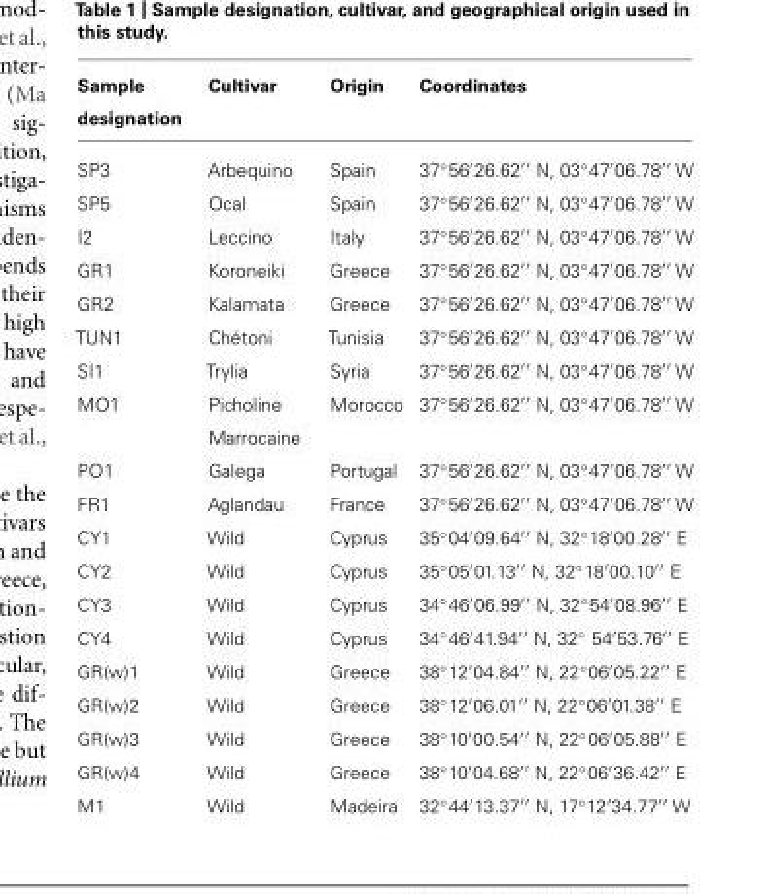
<table><thead><tr><td>Sample designation</td><td>Cultivar</td><td>Origin</td><td>Coordinates</td></tr></thead><tbody><tr><td>SP3</td><td>Arbequino</td><td>Spain</td><td>37◦56′26.62′′ N, 03◦47′06.78′′ W</td></tr><tr><td>SP5</td><td>Ocal</td><td>Spain</td><td>37◦56′26.62′′ N, 03◦47′06.78′′ W</td></tr><tr><td>I2</td><td>Leccino</td><td>Italy</td><td>37◦56′26.62′′ N, 03◦47′06.78′′ W</td></tr><tr><td>GR1</td><td>Koroneiki</td><td>Greece</td><td>37◦56′26.62′′ N, 03◦47′06.78′′ W</td></tr><tr><td>GR2</td><td>Kalamata</td><td>Greece</td><td>37◦56′26.62′′ N, 03◦47′06.78′′ W</td></tr><tr><td>TUN1</td><td>Chétoni</td><td>Tunisia</td><td>37◦56′26.62′′ N, 03◦47′06.78′′ W</td></tr><tr><td>SI1</td><td>Trylia</td><td>Syria</td><td>37◦56′26.62′′ N, 03◦47′06.78′′ W</td></tr><tr><td>MO1</td><td>Picholine Marrocaine</td><td>Morocco</td><td>37◦56′26.62′′ N, 03◦47′06.78′′ W</td></tr><tr><td>PO1</td><td>Galega</td><td>Portugal</td><td>37◦56′26.62′′ N, 03◦47′06.78′′ W</td></tr><tr><td>FR1</td><td>Aglandau</td><td>France</td><td>37◦56′26.62′′ N, 03◦47′06.78′′ W</td></tr><tr><td>CY1</td><td>Wild</td><td>Cyprus</td><td>35◦04′09.64′′ N, 32◦18′00.28′′ E</td></tr><tr><td>CY2</td><td>Wild</td><td>Cyprus</td><td>35◦05′01.13′′ N, 32◦18′00.10′′ E</td></tr><tr><td>CY3</td><td>Wild</td><td>Cyprus</td><td>34◦46′06.99′′ N, 32◦54′08.96′′ E</td></tr><tr><td>CY4</td><td>Wild</td><td>Cyprus</td><td>34◦46′41.94′′ N, 32◦ 54′53.76′′ E</td></tr><tr><td>GR(w)1</td><td>Wild</td><td>Greece</td><td>38◦12′04.84′′ N, 22◦06′05.22′′ E</td></tr><tr><td>GR(w)2</td><td>Wild</td><td>Greece</td><td>38◦12′06.01′′ N, 22◦06′01.38′′ E</td></tr><tr><td>GR(w)3</td><td>Wild</td><td>Greece</td><td>38◦10′00.54′′ N, 22◦06′05.88′′ E</td></tr><tr><td>GR(w)4</td><td>Wild</td><td>Greece</td><td>38◦10′04.68′′ N, 22◦06′36.42′′ E</td></tr><tr><td>M1</td><td>Wild</td><td>Madeira</td><td>32◦44′13.37′′ N, 17◦12′34.77′′ W</td></tr></tbody></table>